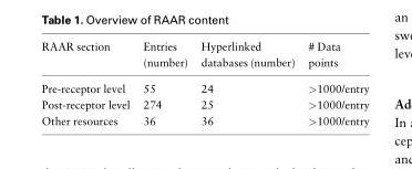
<table><thead><tr><td>RAAR section</td><td>Entries (number)</td><td>Hyperlinked databases (number)</td><td># Data points</td></tr></thead><tbody><tr><td>Pre-receptor level</td><td>55</td><td>24</td><td>&gt;1000/entry</td></tr><tr><td>Post-receptor level</td><td>274</td><td>25</td><td>&gt;1000/entry</td></tr><tr><td>Other resources</td><td>36</td><td>36</td><td>&gt;1000/entry</td></tr></tbody></table>